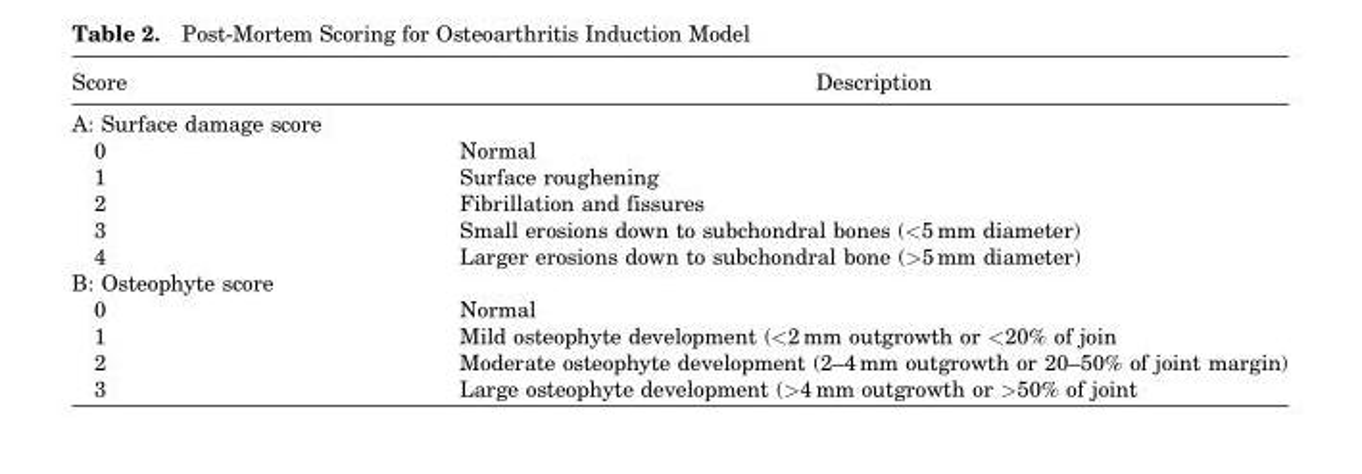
<table><thead><tr><td>Score</td><td>Description</td></tr></thead><tbody><tr><td colspan="2">A: Surface damage score</td></tr><tr><td>0</td><td>Normal</td></tr><tr><td>1</td><td>Surface roughening</td></tr><tr><td>2</td><td>Fibrillation and fissures</td></tr><tr><td>3</td><td>Small erosions down to subchondral bones (&lt;5 mm diameter)</td></tr><tr><td>4</td><td>Larger erosions down to subchondral bone (&gt;5 mm diameter)</td></tr><tr><td colspan="2">B: Osteophyte score</td></tr><tr><td>0</td><td>Normal</td></tr><tr><td>1</td><td>Mild osteophyte development (&lt;2 mm outgrowth or &lt;20% of join</td></tr><tr><td>2</td><td>Moderate osteophyte development (2–4 mm outgrowth or 20–50% of joint margin)</td></tr><tr><td>3</td><td>Large osteophyte development (&gt;4 mm outgrowth or &gt;50% of joint</td></tr></tbody></table>